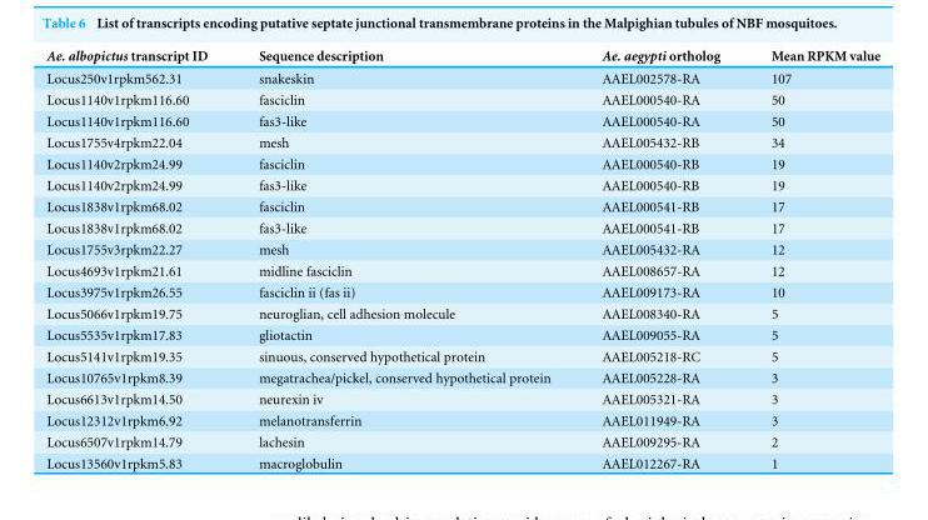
<table><thead><tr><td>Ae. albopictus transcript ID</td><td>Sequence description</td><td>Ae. aegypti ortholog</td><td>Mean RPKM value</td></tr></thead><tbody><tr><td>Locus250v1rpkm562.31</td><td>snakeskin</td><td>AAEL002578-RA</td><td>107</td></tr><tr><td>Locus1140v1rpkm116.60</td><td>fasciclin</td><td>AAEL000540-RA</td><td>50</td></tr><tr><td>Locus1140v1rpkm116.60</td><td>fas3-like</td><td>AAEL000540-RA</td><td>50</td></tr><tr><td>Locus1755v4rpkm22.04</td><td>mesh</td><td>AAEL005432-RB</td><td>34</td></tr><tr><td>Locus1140v2rpkm24.99</td><td>fasciclin</td><td>AAEL000540-RB</td><td>19</td></tr><tr><td>Locus1140v2rpkm24.99</td><td>fas3-like</td><td>AAEL000540-RB</td><td>19</td></tr><tr><td>Locus1838v1rpkm68.02</td><td>fasciclin</td><td>AAEL000541-RB</td><td>17</td></tr><tr><td>Locus1838v1rpkm68.02</td><td>fas3-like</td><td>AAEL000541-RB</td><td>17</td></tr><tr><td>Locus1755v3rpkm22.27</td><td>mesh</td><td>AAEL005432-RA</td><td>12</td></tr><tr><td>Locus4693v1rpkm21.61</td><td>midline fasciclin</td><td>AAEL008657-RA</td><td>12</td></tr><tr><td>Locus3975v1rpkm26.55</td><td>fasciclin ii (fas ii)</td><td>AAEL009173-RA</td><td>10</td></tr><tr><td>Locus5066v1rpkm19.75</td><td>neuroglian, cell adhesion molecule</td><td>AAEL008340-RA</td><td>5</td></tr><tr><td>Locus5535v1rpkm17.83</td><td>gliotactin</td><td>AAEL009055-RA</td><td>5</td></tr><tr><td>Locus5141v1rpkm19.35</td><td>sinuous, conserved hypothetical protein</td><td>AAEL005218-RC</td><td>5</td></tr><tr><td>Locus10765v1rpkm8.39</td><td>megatrachea/pickel, conserved hypothetical protein</td><td>AAEL005228-RA</td><td>3</td></tr><tr><td>Locus6613v1rpkm14.50</td><td>neurexin iv</td><td>AAEL005321-RA</td><td>3</td></tr><tr><td>Locus12312v1rpkm6.92</td><td>melanotransferrin</td><td>AAEL011949-RA</td><td>3</td></tr><tr><td>Locus6507v1rpkm14.79</td><td>lachesin</td><td>AAEL009295-RA</td><td>2</td></tr><tr><td>Locus13560v1rpkm5.83</td><td>macroglobulin</td><td>AAEL012267-RA</td><td>1</td></tr></tbody></table>